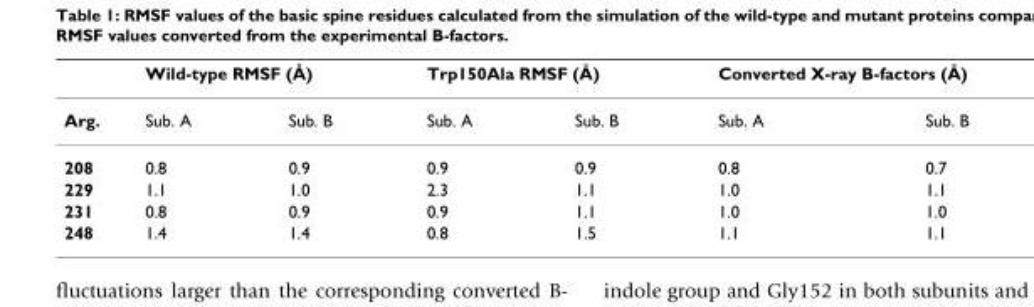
<table><thead><tr><td rowspan="2">Arg.</td><td colspan="2">Wild-type RMSF (Å)</td><td colspan="2">Trp150Ala RMSF (Å)</td><td colspan="2">Converted X-ray B-factors (Å)</td></tr><tr><td>Sub. A</td><td>Sub. B</td><td>Sub. A</td><td>Sub. B</td><td>Sub. A</td><td>Sub. B</td></tr></thead><tbody><tr><td>208</td><td>0.8</td><td>0.9</td><td>0.9</td><td>0.9</td><td>0.8</td><td>0.7</td></tr><tr><td>229</td><td>1.1</td><td>1.0</td><td>2.3</td><td>1.1</td><td>1.0</td><td>1.1</td></tr><tr><td>231</td><td>0.8</td><td>0.9</td><td>0.9</td><td>1.1</td><td>1.0</td><td>1.0</td></tr><tr><td>248</td><td>1.4</td><td>1.4</td><td>0.8</td><td>1.5</td><td>1.1</td><td>1.1</td></tr></tbody></table>